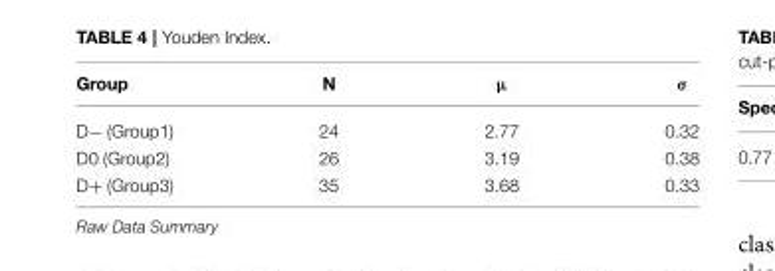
<table><thead><tr><td>Group</td><td>N</td><td>µ</td><td>σ</td></tr></thead><tbody><tr><td>D− (Group1)</td><td>24</td><td>2.77</td><td>0.32</td></tr><tr><td>D0 (Group2)</td><td>26</td><td>3.19</td><td>0.38</td></tr><tr><td>D+ (Group3)</td><td>35</td><td>3.68</td><td>0.33</td></tr></tbody></table>